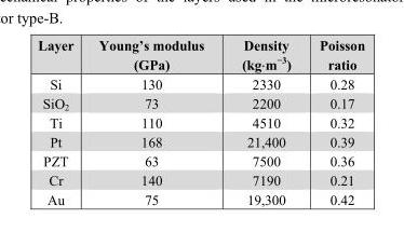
<table><thead><tr><td>Layer</td><td>Young’s modulus (GPa)</td><td>Density (kg⋅m−3)</td><td>Poisson ratio</td></tr></thead><tbody><tr><td>Si</td><td>130</td><td>2330</td><td>0.28</td></tr><tr><td>SiO<sub>2</sub></td><td>73</td><td>2200</td><td>0.17</td></tr><tr><td>Ti</td><td>110</td><td>4510</td><td>0.32</td></tr><tr><td>Pt</td><td>168</td><td>21,400</td><td>0.39</td></tr><tr><td>PZT</td><td>63</td><td>7500</td><td>0.36</td></tr><tr><td>Cr</td><td>140</td><td>7190</td><td>0.21</td></tr><tr><td>Au</td><td>75</td><td>19,300</td><td>0.42</td></tr></tbody></table>